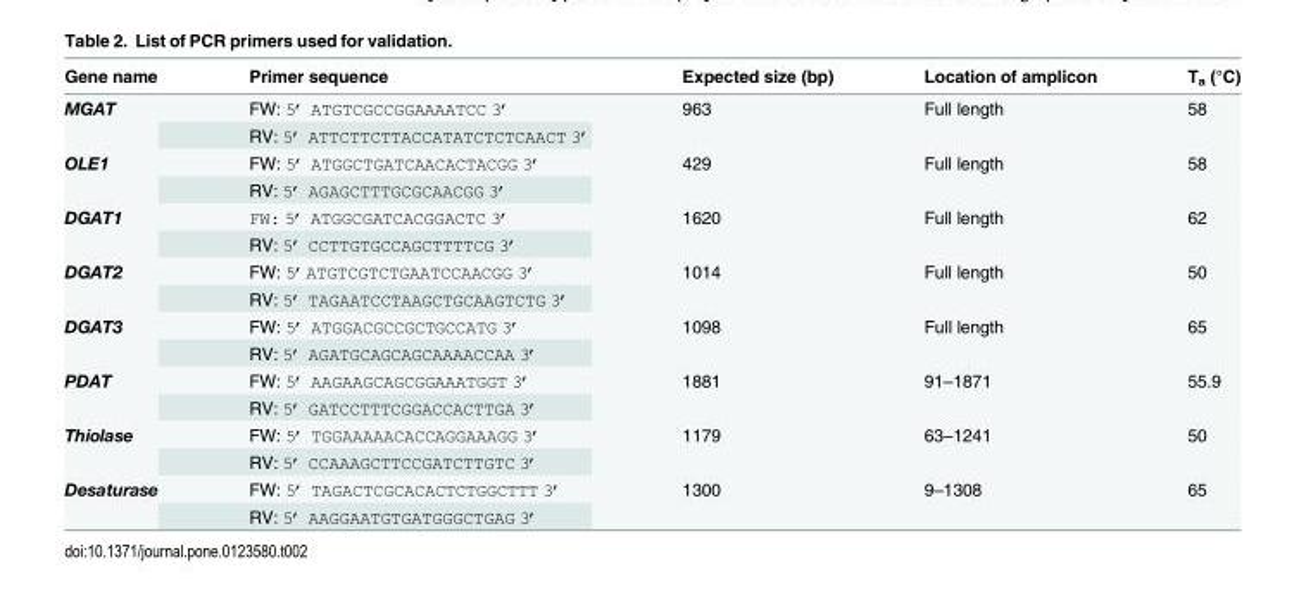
<table><thead><tr><td>Gene name</td><td>Primer sequence</td><td>Expected size (bp)</td><td>Location of amplicon</td><td>T<sub>a</sub> (°C)</td></tr></thead><tbody><tr><td rowspan="2">MGAT</td><td>FW: 5’ ATGTCGCCGGAAAATCC 3’</td><td rowspan="2">963</td><td rowspan="2">Full length</td><td rowspan="2">58</td></tr><tr><td>RV: 5’ ATTCTTCTTACCATATCTCTCAACT 3’</td></tr><tr><td rowspan="2">OLE1</td><td>FW: 5’ ATGGCTGATCAACACTACGG 3’</td><td rowspan="2">429</td><td rowspan="2">Full length</td><td rowspan="2">58</td></tr><tr><td>RV: 5’ AGAGCTTTGCGCAACGG 3’</td></tr><tr><td rowspan="2">DGAT1</td><td>FW: 5’ ATGGCGATCACGGACTC 3’</td><td rowspan="2">1620</td><td rowspan="2">Full length</td><td rowspan="2">62</td></tr><tr><td>RV: 5’ CCTTGTGCCAGCTTTTCG 3’</td></tr><tr><td rowspan="2">DGAT2</td><td>FW: 5’ATGTCGTCTGAATCCAACGG 3’</td><td rowspan="2">1014</td><td rowspan="2">Full length</td><td rowspan="2">50</td></tr><tr><td>RV: 5’ TAGAATCCTAAGCTGCAAGTCTG 3’</td></tr><tr><td rowspan="2">DGAT3</td><td>FW: 5’ ATGGACGCCGCTGCCATG 3’</td><td rowspan="2">1098</td><td rowspan="2">Full length</td><td rowspan="2">65</td></tr><tr><td>RV: 5’ AGATGCAGCAGCAAAACCAA 3’</td></tr><tr><td rowspan="2">PDAT</td><td>FW: 5’ AAGAAGCAGCGGAAATGGT 3’</td><td rowspan="2">1881</td><td rowspan="2">91–1871</td><td rowspan="2">55.9</td></tr><tr><td>RV: 5’ GATCCTTTCGGACCACTTGA 3’</td></tr><tr><td rowspan="2">Thiolase</td><td>FW: 5’ TGGAAAAACACCAGGAAAGG 3’</td><td rowspan="2">1179</td><td rowspan="2">63–1241</td><td rowspan="2">50</td></tr><tr><td>RV: 5’ CCAAAGCTTCCGATCTTGTC 3’</td></tr><tr><td rowspan="2">Desaturase</td><td>FW: 5’ TAGACTCGCACACTCTGGCTTT 3’</td><td rowspan="2">1300</td><td rowspan="2">9–1308</td><td rowspan="2">65</td></tr><tr><td>RV: 5’ AAGGAATGTGATGGGCTGAG 3’</td></tr></tbody></table>